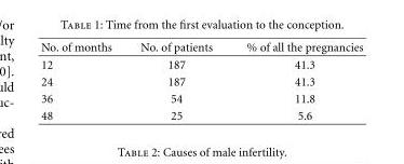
<table><thead><tr><td>No. of months</td><td>No. of patients</td><td>% of all the pregnancies</td></tr></thead><tbody><tr><td>12</td><td>187</td><td>41.3</td></tr><tr><td>24</td><td>187</td><td>41.3</td></tr><tr><td>36</td><td>54</td><td>11.8</td></tr><tr><td>48</td><td>25</td><td>5.6</td></tr></tbody></table>